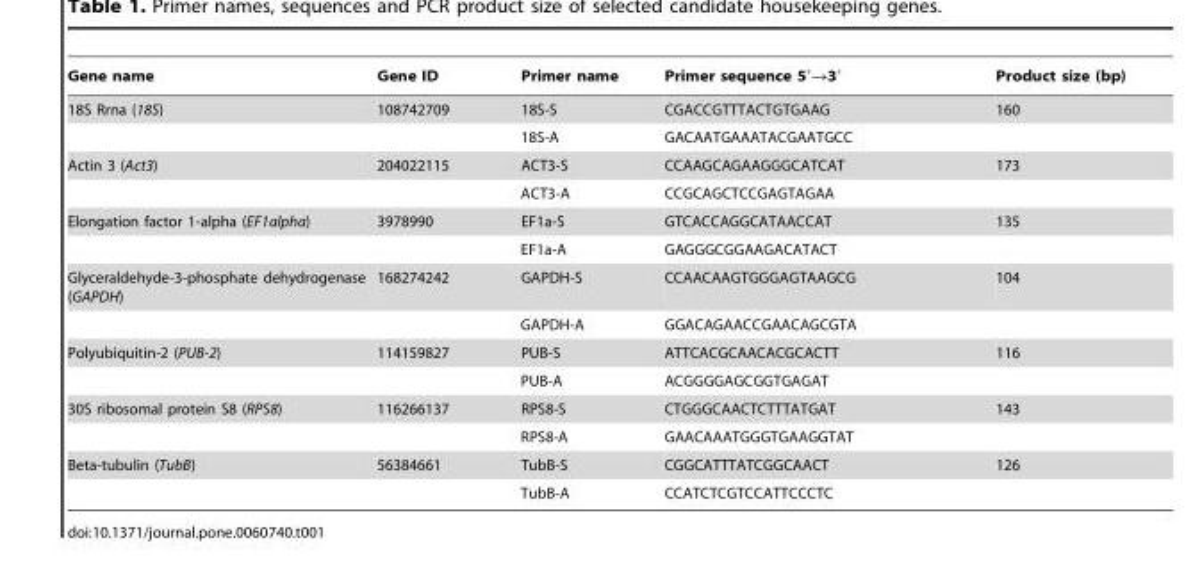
<table><thead><tr><td>Gene name</td><td>Gene ID</td><td>Primer name</td><td>Primer sequence 5′→3′</td><td>Product size (bp)</td></tr></thead><tbody><tr><td rowspan="2">18S Rrna (18S)</td><td>108742709</td><td>18S-S</td><td>CGACCGTTTACTGTGAAG</td><td>160</td></tr><tr><td></td><td>18S-A</td><td>GACAATGAAATACGAATGCC</td><td></td></tr><tr><td rowspan="2">Actin 3 (Act3)</td><td>204022115</td><td>ACT3-S</td><td>CCAAGCAGAAGGGCATCAT</td><td>173</td></tr><tr><td></td><td>ACT3-A</td><td>CCGCAGCTCCGAGTAGAA</td><td></td></tr><tr><td rowspan="2">Elongation factor 1-alpha (EF1alpha)</td><td>3978990</td><td>EF1a-S</td><td>GTCACCAGGCATAACCAT</td><td>135</td></tr><tr><td></td><td>EF1a-A</td><td>GAGGGCGGAAGACATACT</td><td></td></tr><tr><td rowspan="2">Glyceraldehyde-3-phosphate dehydrogenase (GAPDH)</td><td>168274242</td><td>GAPDH-S</td><td>CCAACAAGTGGGAGTAAGCG</td><td>104</td></tr><tr><td></td><td>GAPDH-A</td><td>GGACAGAACCGAACAGCGTA</td><td></td></tr><tr><td rowspan="2">Polyubiquitin-2 (PUB-2)</td><td>114159827</td><td>PUB-S</td><td>ATTCACGCAACACGCACTT</td><td>116</td></tr><tr><td></td><td>PUB-A</td><td>ACGGGGAGCGGTGAGAT</td><td></td></tr><tr><td rowspan="2">30S ribosomal protein S8 (RPS8)</td><td>116266137</td><td>RPS8-S</td><td>CTGGGCAACTCTTTATGAT</td><td>143</td></tr><tr><td></td><td>RPS8-A</td><td>GAACAAATGGGTGAAGGTAT</td><td></td></tr><tr><td rowspan="2">Beta-tubulin (TubB)</td><td>56384661</td><td>TubB-S</td><td>CGGCATTTATCGGCAACT</td><td>126</td></tr><tr><td></td><td>TubB-A</td><td>CCATCTCGTCCATTCCCTC</td><td></td></tr></tbody></table>